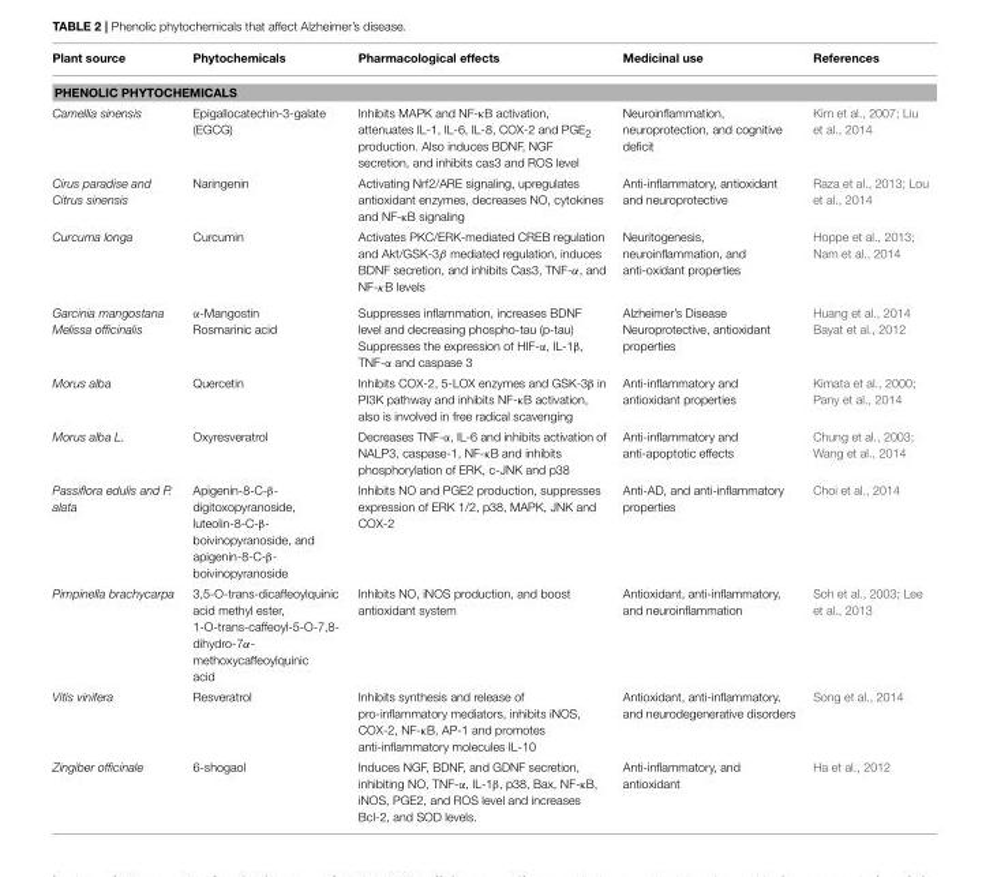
<table><thead><tr><td>Plant source</td><td>Phytochemicals</td><td>Pharmacological effects</td><td>Medicinal use</td><td>References</td></tr></thead><tbody><tr><td colspan="5">PHENOLIC PHYTOCHEMICALS</td></tr><tr><td>Camellia sinensis</td><td>Epigallocatechin-3-galate (EGCG)</td><td>Inhibits MAPK and NF-κB activation, attenuates IL-1, IL-6, IL-8, COX-2 and PGE<sub>2</sub> production. Also induces BDNF, NGF secretion, and inhibits cas3 and ROS level</td><td>Neuroinflammation, neuroprotection, and cognitive deficit</td><td>Kim et al., 2007; Liu et al., 2014</td></tr><tr><td>Cirus paradise and Citrus sinensis</td><td>Naringenin</td><td>Activating Nrf2/ARE signaling, upregulates antioxidant enzymes, decreases NO, cytokines and NF-κB signaling</td><td>Anti-inflammatory, antioxidant and neuroprotective</td><td>Raza et al., 2013; Lou et al., 2014</td></tr><tr><td>Curcuma longa</td><td>Curcumin</td><td>Activates PKC/ERK-mediated CREB regulation and Akt/GSK-3β mediated regulation, induces BDNF secretion, and inhibits Cas3, TNF-α, and NF-κB levels</td><td>Neuritogenesis, neuroinflammation, and anti-oxidant properties</td><td>Hoppe et al., 2013; Nam et al., 2014</td></tr><tr><td>Garcinia mangostana Melissa officinalis</td><td>α-Mangostin Rosmarinic acid</td><td>Suppresses inflammation, increases BDNF level and decreasing phospho-tau (p-tau) Suppresses the expression of HIF-α, IL-1β, TNF-α and caspase 3</td><td>Alzheimer’s Disease Neuroprotective, antioxidant properties</td><td>Huang et al., 2014 Bayat et al., 2012</td></tr><tr><td>Morus alba</td><td>Quercetin</td><td>Inhibits COX-2, 5-LOX enzymes and GSK-3β in PI3K pathway and inhibits NF-κB activation, also is involved in free radical scavenging</td><td>Anti-inflammatory and antioxidant properties</td><td>Kimata et al., 2000; Pany et al., 2014</td></tr><tr><td>Morus alba L.</td><td>Oxyresveratrol</td><td>Decreases TNF-α, IL-6 and inhibits activation of NALP3, caspase-1, NF-κB and inhibits phosphorylation of ERK, c-JNK and p38</td><td>Anti-inflammatory and anti-apoptotic effects</td><td>Chung et al., 2003; Wang et al., 2014</td></tr><tr><td>Passiflora edulis and P. alata</td><td>Apigenin-8-C-β- digitoxopyranoside, luteolin-8-C-β- boivinopyranoside, and apigenin-8-C-β- boivinopyranoside</td><td>Inhibits NO and PGE2 production, suppresses expression of ERK 1/2, p38, MAPK, JNK and COX-2</td><td>Anti-AD, and anti-inflammatory properties</td><td>Choi et al., 2014</td></tr><tr><td>Pimpinella brachycarpa</td><td>3,5-O-trans-dicaffeoylquinic acid methyl ester, 1-O-trans-caffeoyl-5-O-7,8- dihydro-7α- methoxycaffeoylquinic acid</td><td>Inhibits NO, iNOS production, and boost antioxidant system</td><td>Antioxidant, anti-inflammatory, and neuroinflammation</td><td>Soh et al., 2003; Lee et al., 2013</td></tr><tr><td>Vitis vinifera</td><td>Resveratrol</td><td>Inhibits synthesis and release of pro-inflammatory mediators, inhibits iNOS, COX-2, NF-κB, AP-1 and promotes anti-inflammatory molecules IL-10</td><td>Antioxidant, anti-inflammatory, and neurodegenerative disorders</td><td>Song et al., 2014</td></tr><tr><td>Zingiber officinale</td><td>6-shogaol</td><td>Induces NGF, BDNF, and GDNF secretion, inhibiting NO, TNF-α, IL-1β, p38, Bax, NF-κB, iNOS, PGE2, and ROS level and increases Bcl-2, and SOD levels.</td><td>Anti-inflammatory, and antioxidant</td><td>Ha et al., 2012</td></tr></tbody></table>